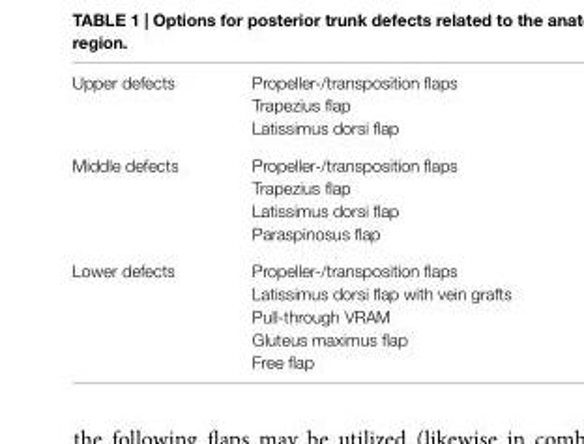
<table><tbody><tr><td>Upper defects</td><td>Propeller-/transposition flaps Trapezius flap Latissimus dorsi flap</td></tr><tr><td>Middle defects</td><td>Propeller-/transposition flaps Trapezius flap Latissimus dorsi flap Paraspinosus flap</td></tr><tr><td>Lower defects</td><td>Propeller-/transposition flaps Latissimus dorsi flap with vein grafts Pull-through VRAM Gluteus maximus flap Free flap</td></tr></tbody></table>